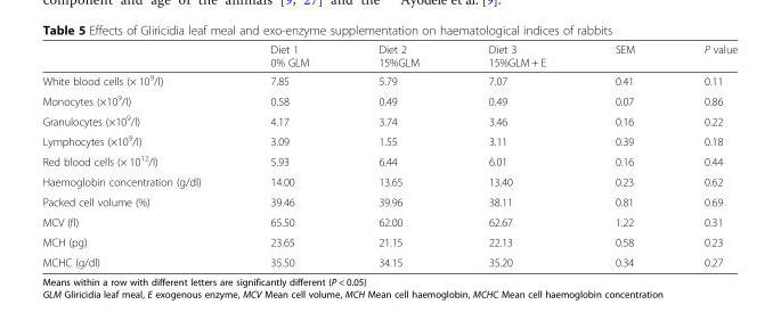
<table><thead><tr><td></td><td>Diet 1 0% GLM</td><td>Diet 2 15%GLM</td><td>Diet 3 15%GLM + E</td><td>SEM</td><td>P value</td></tr></thead><tbody><tr><td>White blood cells (× 10<sup>9</sup>/l)</td><td>7.85</td><td>5.79</td><td>7.07</td><td>0.41</td><td>0.11</td></tr><tr><td>Monocytes (×10<sup>9</sup>/l)</td><td>0.58</td><td>0.49</td><td>0.49</td><td>0.07</td><td>0.86</td></tr><tr><td>Granulocytes (×10<sup>9</sup>/l)</td><td>4.17</td><td>3.74</td><td>3.46</td><td>0.16</td><td>0.22</td></tr><tr><td>Lymphocytes (×10<sup>9</sup>/l)</td><td>3.09</td><td>1.55</td><td>3.11</td><td>0.39</td><td>0.18</td></tr><tr><td>Red blood cells (× 10<sup>12</sup>/l)</td><td>5.93</td><td>6.44</td><td>6.01</td><td>0.16</td><td>0.44</td></tr><tr><td>Haemoglobin concentration (g/dl)</td><td>14.00</td><td>13.65</td><td>13.40</td><td>0.23</td><td>0.62</td></tr><tr><td>Packed cell volume (%)</td><td>39.46</td><td>39.96</td><td>38.11</td><td>0.81</td><td>0.69</td></tr><tr><td>MCV (fl)</td><td>65.50</td><td>62.00</td><td>62.67</td><td>1.22</td><td>0.31</td></tr><tr><td>MCH (pg)</td><td>23.65</td><td>21.15</td><td>22.13</td><td>0.58</td><td>0.23</td></tr><tr><td>MCHC (g/dl)</td><td>35.50</td><td>34.15</td><td>35.20</td><td>0.34</td><td>0.27</td></tr></tbody></table>